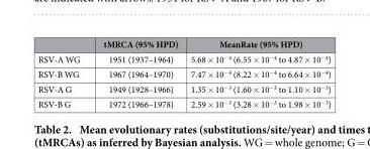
<table><thead><tr><td></td><td>tMRCA (95% HPD)</td><td>MeanRate (95% HPD)</td></tr></thead><tbody><tr><td>RSV-A WG</td><td>1951 (1937–1964)</td><td>5.68 × 10<sup>−4</sup> (6.55 × 10<sup>−4</sup> to 4.87 × 10<sup>−4</sup>)</td></tr><tr><td>RSV-B WG</td><td>1967 (1964–1970)</td><td>7.47 × 10<sup>−4</sup> (8.22 × 10<sup>−4</sup> to 6.64 × 10<sup>−4</sup>)</td></tr><tr><td>RSV-A G</td><td>1949 (1928–1966)</td><td>1.35 × 10<sup>−3</sup> (1.60 × 10<sup>−3</sup> to 1.10 × 10<sup>−3</sup>)</td></tr><tr><td>RSV-B G</td><td>1972 (1966–1978)</td><td>2.59 × 10<sup>−3</sup> (3.28 × 10<sup>−3</sup> to 1.98 × 10<sup>−3</sup>)</td></tr></tbody></table>